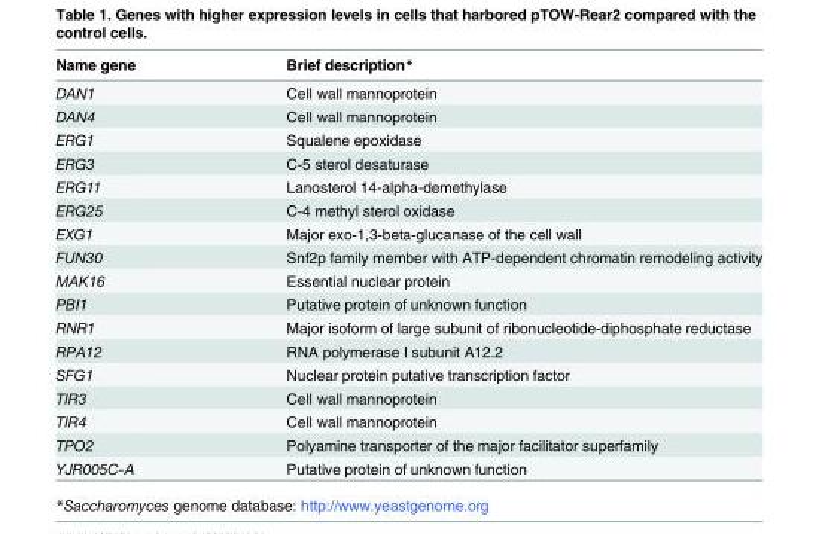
<table><thead><tr><td>Name gene</td><td>Brief description*</td></tr></thead><tbody><tr><td>DAN1</td><td>Cell wall mannoprotein</td></tr><tr><td>DAN4</td><td>Cell wall mannoprotein</td></tr><tr><td>ERG1</td><td>Squalene epoxidase</td></tr><tr><td>ERG3</td><td>C-5 sterol desaturase</td></tr><tr><td>ERG11</td><td>Lanosterol 14-alpha-demethylase</td></tr><tr><td>ERG25</td><td>C-4 methyl sterol oxidase</td></tr><tr><td>EXG1</td><td>Major exo-1,3-beta-glucanase of the cell wall</td></tr><tr><td>FUN30</td><td>Snf2p family member with ATP-dependent chromatin remodeling activity</td></tr><tr><td>MAK16</td><td>Essential nuclear protein</td></tr><tr><td>PBI1</td><td>Putative protein of unknown function</td></tr><tr><td>RNR1</td><td>Major isoform of large subunit of ribonucleotide-diphosphate reductase</td></tr><tr><td>RPA12</td><td>RNA polymerase I subunit A12.2</td></tr><tr><td>SFG1</td><td>Nuclear protein putative transcription factor</td></tr><tr><td>TIR3</td><td>Cell wall mannoprotein</td></tr><tr><td>TIR4</td><td>Cell wall mannoprotein</td></tr><tr><td>TPO2</td><td>Polyamine transporter of the major facilitator superfamily</td></tr><tr><td>YJR005C-A</td><td>Putative protein of unknown function</td></tr></tbody></table>